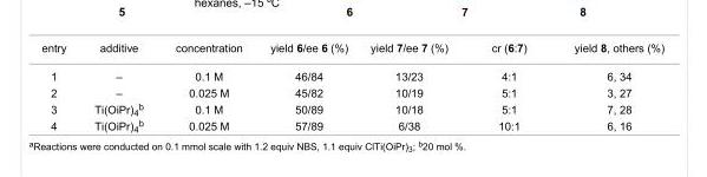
<table><tbody><tr><td>entry</td><td>additive</td><td>concentration</td><td>yield 6/ee 6 (%)</td><td>yield 7/ee 7 (%)</td><td>cr (6:7)</td><td>yield 8, others (%)</td></tr><tr><td>1</td><td>–</td><td>0.1 M</td><td>46/84</td><td>13/23</td><td>4:1</td><td>6, 34</td></tr><tr><td>2</td><td>–</td><td>0.025 M</td><td>45/82</td><td>10/19</td><td>5:1</td><td>3, 27</td></tr><tr><td>3</td><td>Ti(OiPr)<sub>4</sub><sup>b</sup></td><td>0.1 M</td><td>50/89</td><td>10/18</td><td>5:1</td><td>7, 28</td></tr><tr><td>4</td><td>Ti(OiPr)<sub>4</sub><sup>b</sup></td><td>0.025 M</td><td>57/89</td><td>6/38</td><td>10:1</td><td>6, 16</td></tr></tbody></table>